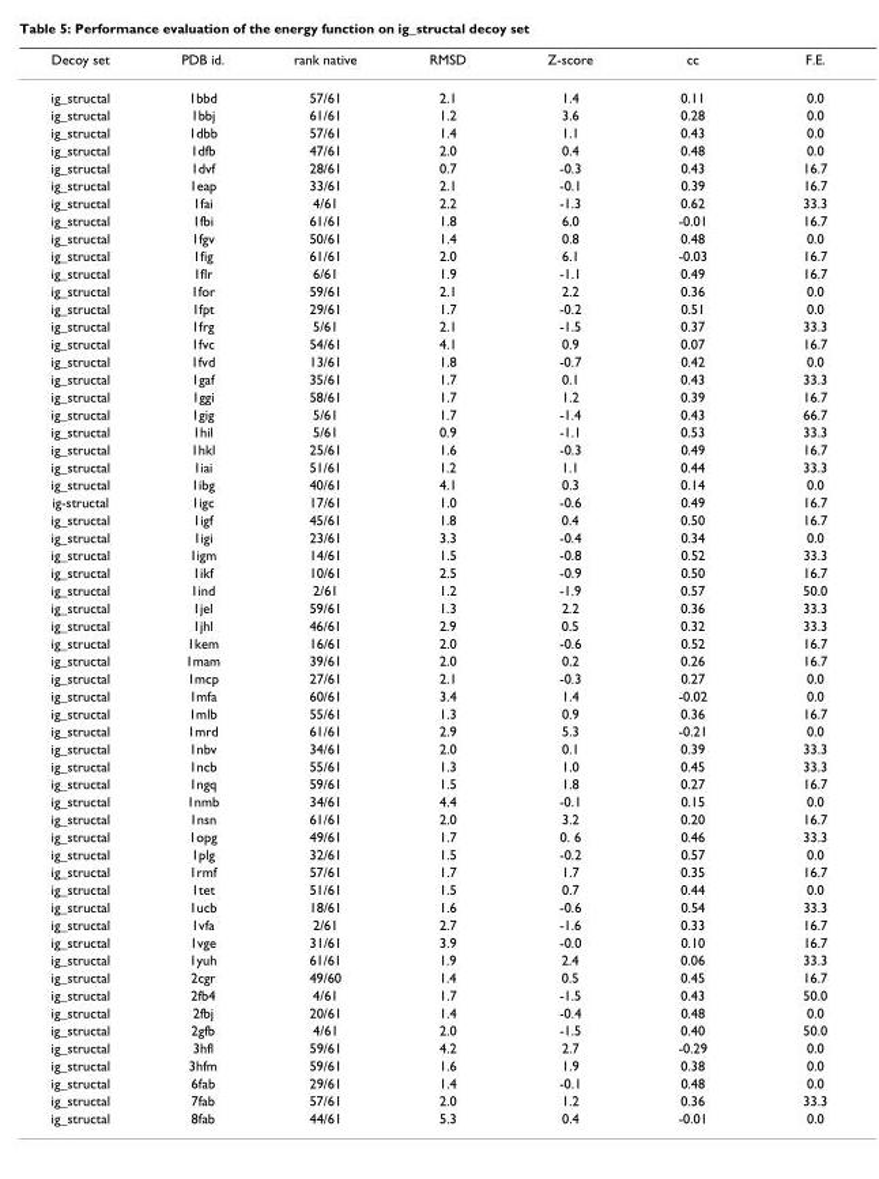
<table><thead><tr><td>Decoy set</td><td>PDB id.</td><td>rank native</td><td>RMSD</td><td>Z-score</td><td>cc</td><td>F.E.</td></tr></thead><tbody><tr><td>ig_structal</td><td>1bbd</td><td>57/61</td><td>2.1</td><td>1.4</td><td>0.11</td><td>0.0</td></tr><tr><td>ig_structal</td><td>1bbj</td><td>61/61</td><td>1.2</td><td>3.6</td><td>0.28</td><td>0.0</td></tr><tr><td>ig_structal</td><td>1dbb</td><td>57/61</td><td>1.4</td><td>1.1</td><td>0.43</td><td>0.0</td></tr><tr><td>ig_structal</td><td>1dfb</td><td>47/61</td><td>2.0</td><td>0.4</td><td>0.48</td><td>0.0</td></tr><tr><td>ig_structal</td><td>1dvf</td><td>28/61</td><td>0.7</td><td>-0.3</td><td>0.43</td><td>16.7</td></tr><tr><td>ig_structal</td><td>1eap</td><td>33/61</td><td>2.1</td><td>-0.1</td><td>0.39</td><td>16.7</td></tr><tr><td>ig_structal</td><td>1fai</td><td>4/61</td><td>2.2</td><td>-1.3</td><td>0.62</td><td>33.3</td></tr><tr><td>ig_structal</td><td>1fbi</td><td>61/61</td><td>1.8</td><td>6.0</td><td>-0.01</td><td>16.7</td></tr><tr><td>ig_structal</td><td>1fgv</td><td>50/61</td><td>1.4</td><td>0.8</td><td>0.48</td><td>0.0</td></tr><tr><td>ig_structal</td><td>1fig</td><td>61/61</td><td>2.0</td><td>6.1</td><td>-0.03</td><td>16.7</td></tr><tr><td>ig_structal</td><td>1flr</td><td>6/61</td><td>1.9</td><td>-1.1</td><td>0.49</td><td>16.7</td></tr><tr><td>ig_structal</td><td>1for</td><td>59/61</td><td>2.1</td><td>2.2</td><td>0.36</td><td>0.0</td></tr><tr><td>ig_structal</td><td>1fpt</td><td>29/61</td><td>1.7</td><td>-0.2</td><td>0.51</td><td>0.0</td></tr><tr><td>ig_structal</td><td>1frg</td><td>5/61</td><td>2.1</td><td>-1.5</td><td>0.37</td><td>33.3</td></tr><tr><td>ig_structal</td><td>1fvc</td><td>54/61</td><td>4.1</td><td>0.9</td><td>0.07</td><td>16.7</td></tr><tr><td>ig_structal</td><td>1fvd</td><td>13/61</td><td>1.8</td><td>-0.7</td><td>0.42</td><td>0.0</td></tr><tr><td>ig_structal</td><td>1gaf</td><td>35/61</td><td>1.7</td><td>0.1</td><td>0.43</td><td>33.3</td></tr><tr><td>ig_structal</td><td>1ggi</td><td>58/61</td><td>1.7</td><td>1.2</td><td>0.39</td><td>16.7</td></tr><tr><td>ig_structal</td><td>1gig</td><td>5/61</td><td>1.7</td><td>-1.4</td><td>0.43</td><td>66.7</td></tr><tr><td>ig_structal</td><td>1hil</td><td>5/61</td><td>0.9</td><td>-1.1</td><td>0.53</td><td>33.3</td></tr><tr><td>ig_structal</td><td>1hkl</td><td>25/61</td><td>1.6</td><td>-0.3</td><td>0.49</td><td>16.7</td></tr><tr><td>ig_structal</td><td>1iai</td><td>51/61</td><td>1.2</td><td>1.1</td><td>0.44</td><td>33.3</td></tr><tr><td>ig_structal</td><td>1ibg</td><td>40/61</td><td>4.1</td><td>0.3</td><td>0.14</td><td>0.0</td></tr><tr><td>ig-structal</td><td>1igc</td><td>17/61</td><td>1.0</td><td>-0.6</td><td>0.49</td><td>16.7</td></tr><tr><td>ig_structal</td><td>1igf</td><td>45/61</td><td>1.8</td><td>0.4</td><td>0.50</td><td>16.7</td></tr><tr><td>ig_structal</td><td>1igi</td><td>23/61</td><td>3.3</td><td>-0.4</td><td>0.34</td><td>0.0</td></tr><tr><td>ig_structal</td><td>1igm</td><td>14/61</td><td>1.5</td><td>-0.8</td><td>0.52</td><td>33.3</td></tr><tr><td>ig_structal</td><td>1ikf</td><td>10/61</td><td>2.5</td><td>-0.9</td><td>0.50</td><td>16.7</td></tr><tr><td>ig_structal</td><td>1ind</td><td>2/61</td><td>1.2</td><td>-1.9</td><td>0.57</td><td>50.0</td></tr><tr><td>ig_structal</td><td>1jel</td><td>59/61</td><td>1.3</td><td>2.2</td><td>0.36</td><td>33.3</td></tr><tr><td>ig_structal</td><td>1jhl</td><td>46/61</td><td>2.9</td><td>0.5</td><td>0.32</td><td>33.3</td></tr><tr><td>ig_structal</td><td>1kem</td><td>16/61</td><td>2.0</td><td>-0.6</td><td>0.52</td><td>16.7</td></tr><tr><td>ig_structal</td><td>1mam</td><td>39/61</td><td>2.0</td><td>0.2</td><td>0.26</td><td>16.7</td></tr><tr><td>ig_structal</td><td>1mcp</td><td>27/61</td><td>2.1</td><td>-0.3</td><td>0.27</td><td>0.0</td></tr><tr><td>ig_structal</td><td>1mfa</td><td>60/61</td><td>3.4</td><td>1.4</td><td>-0.02</td><td>0.0</td></tr><tr><td>ig_structal</td><td>1mlb</td><td>55/61</td><td>1.3</td><td>0.9</td><td>0.36</td><td>16.7</td></tr><tr><td>ig_structal</td><td>1mrd</td><td>61/61</td><td>2.9</td><td>5.3</td><td>-0.21</td><td>0.0</td></tr><tr><td>ig_structal</td><td>1nbv</td><td>34/61</td><td>2.0</td><td>0.1</td><td>0.39</td><td>33.3</td></tr><tr><td>ig_structal</td><td>1ncb</td><td>55/61</td><td>1.3</td><td>1.0</td><td>0.45</td><td>33.3</td></tr><tr><td>ig_structal</td><td>1ngq</td><td>59/61</td><td>1.5</td><td>1.8</td><td>0.27</td><td>16.7</td></tr><tr><td>ig_structal</td><td>1nmb</td><td>34/61</td><td>4.4</td><td>-0.1</td><td>0.15</td><td>0.0</td></tr><tr><td>ig_structal</td><td>1nsn</td><td>61/61</td><td>2.0</td><td>3.2</td><td>0.20</td><td>16.7</td></tr><tr><td>ig_structal</td><td>1opg</td><td>49/61</td><td>1.7</td><td>0. 6</td><td>0.46</td><td>33.3</td></tr><tr><td>ig_structal</td><td>1plg</td><td>32/61</td><td>1.5</td><td>-0.2</td><td>0.57</td><td>0.0</td></tr><tr><td>ig_structal</td><td>1rmf</td><td>57/61</td><td>1.7</td><td>1.7</td><td>0.35</td><td>16.7</td></tr><tr><td>ig_structal</td><td>1tet</td><td>51/61</td><td>1.5</td><td>0.7</td><td>0.44</td><td>0.0</td></tr><tr><td>ig_structal</td><td>1ucb</td><td>18/61</td><td>1.6</td><td>-0.6</td><td>0.54</td><td>33.3</td></tr><tr><td>ig_structal</td><td>1vfa</td><td>2/61</td><td>2.7</td><td>-1.6</td><td>0.33</td><td>16.7</td></tr><tr><td>ig_structal</td><td>1vge</td><td>31/61</td><td>3.9</td><td>-0.0</td><td>0.10</td><td>16.7</td></tr><tr><td>ig_structal</td><td>1yuh</td><td>61/61</td><td>1.9</td><td>2.4</td><td>0.06</td><td>33.3</td></tr><tr><td>ig_structal</td><td>2cgr</td><td>49/60</td><td>1.4</td><td>0.5</td><td>0.45</td><td>16.7</td></tr><tr><td>ig_structal</td><td>2fb4</td><td>4/61</td><td>1.7</td><td>-1.5</td><td>0.43</td><td>50.0</td></tr><tr><td>ig_structal</td><td>2fbj</td><td>20/61</td><td>1.4</td><td>-0.4</td><td>0.48</td><td>0.0</td></tr><tr><td>ig_structal</td><td>2gfb</td><td>4/61</td><td>2.0</td><td>-1.5</td><td>0.40</td><td>50.0</td></tr><tr><td>ig_structal</td><td>3hfl</td><td>59/61</td><td>4.2</td><td>2.7</td><td>-0.29</td><td>0.0</td></tr><tr><td>ig_structal</td><td>3hfm</td><td>59/61</td><td>1.6</td><td>1.9</td><td>0.38</td><td>0.0</td></tr><tr><td>ig_structal</td><td>6fab</td><td>29/61</td><td>1.4</td><td>-0.1</td><td>0.48</td><td>0.0</td></tr><tr><td>ig_structal</td><td>7fab</td><td>57/61</td><td>2.0</td><td>1.2</td><td>0.36</td><td>33.3</td></tr><tr><td>ig_structal</td><td>8fab</td><td>44/61</td><td>5.3</td><td>0.4</td><td>-0.01</td><td>0.0</td></tr></tbody></table>